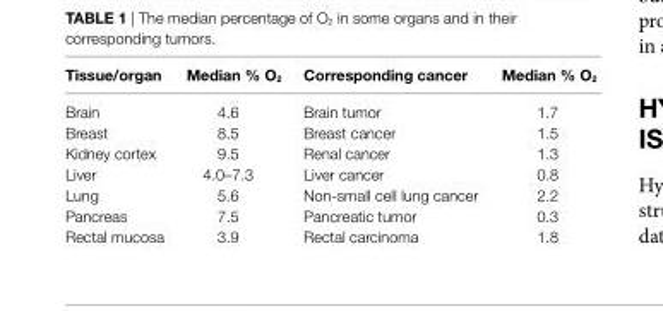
<table><thead><tr><td>Tissue/organ</td><td>Median % O<sub>2</sub></td><td>Corresponding cancer</td><td>Median % O<sub>2</sub></td></tr></thead><tbody><tr><td>Brain</td><td>4.6</td><td>Brain tumor</td><td>1.7</td></tr><tr><td>Breast</td><td>8.5</td><td>Breast cancer</td><td>1.5</td></tr><tr><td>Kidney cortex</td><td>9.5</td><td>Renal cancer</td><td>1.3</td></tr><tr><td>Liver</td><td>4.0–7.3</td><td>Liver cancer</td><td>0.8</td></tr><tr><td>Lung</td><td>5.6</td><td>Non-small cell lung cancer</td><td>2.2</td></tr><tr><td>Pancreas</td><td>7.5</td><td>Pancreatic tumor</td><td>0.3</td></tr><tr><td>Rectal mucosa</td><td>3.9</td><td>Rectal carcinoma</td><td>1.8</td></tr></tbody></table>